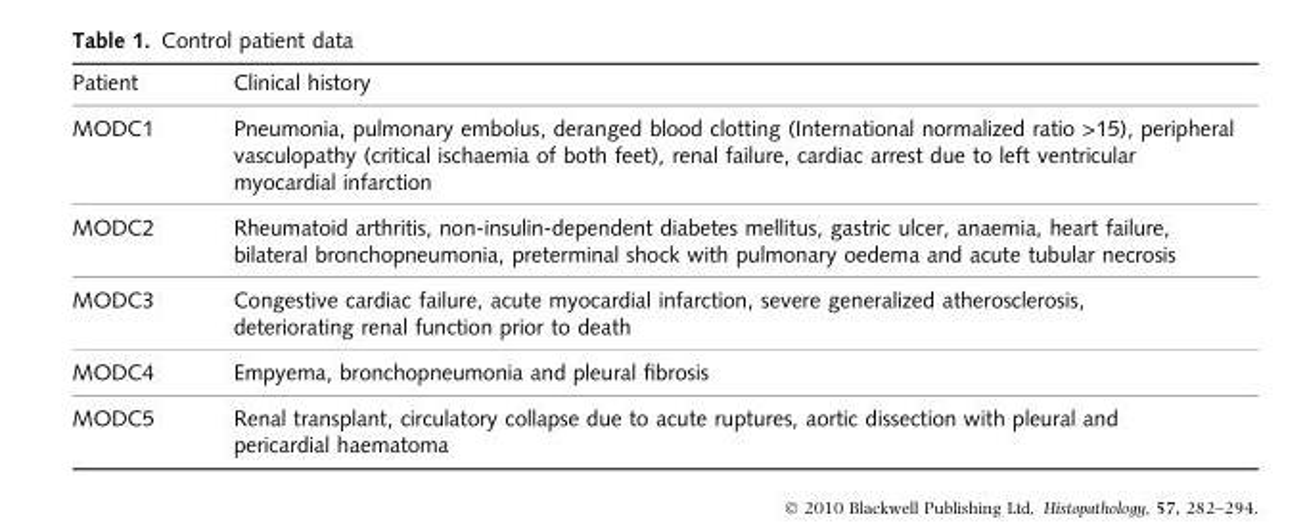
<table><thead><tr><td>Patient</td><td>Clinical history</td></tr></thead><tbody><tr><td>MODC1</td><td>Pneumonia, pulmonary embolus, deranged blood clotting (International normalized ratio &gt;15), peripheral vasculopathy (critical ischaemia of both feet), renal failure, cardiac arrest due to left ventricular myocardial infarction</td></tr><tr><td>MODC2</td><td>Rheumatoid arthritis, non-insulin-dependent diabetes mellitus, gastric ulcer, anaemia, heart failure, bilateral bronchopneumonia, preterminal shock with pulmonary oedema and acute tubular necrosis</td></tr><tr><td>MODC3</td><td>Congestive cardiac failure, acute myocardial infarction, severe generalized atherosclerosis, deteriorating renal function prior to death</td></tr><tr><td>MODC4</td><td>Empyema, bronchopneumonia and pleural fibrosis</td></tr><tr><td>MODC5</td><td>Renal transplant, circulatory collapse due to acute ruptures, aortic dissection with pleural and pericardial haematoma</td></tr></tbody></table>